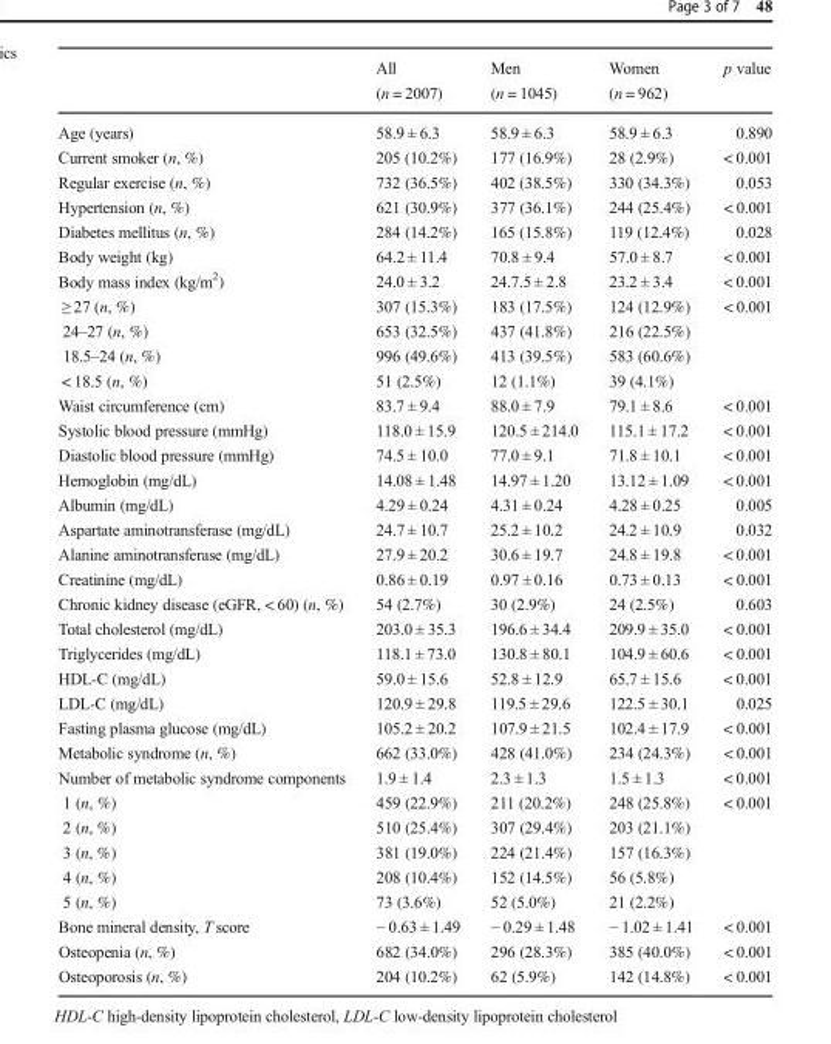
<table><thead><tr><td></td><td>All (n = 2007)</td><td>Men (n = 1045)</td><td>Women (n = 962)</td><td>p value</td></tr></thead><tbody><tr><td>Age (years)</td><td>58.9 ± 6.3</td><td>58.9 ± 6.3</td><td>58.9 ± 6.3</td><td>0.890</td></tr><tr><td>Current smoker (n, %)</td><td>205 (10.2%)</td><td>177 (16.9%)</td><td>28 (2.9%)</td><td>&lt; 0.001</td></tr><tr><td>Regular exercise (n, %)</td><td>732 (36.5%)</td><td>402 (38.5%)</td><td>330 (34.3%)</td><td>0.053</td></tr><tr><td>Hypertension (n, %)</td><td>621 (30.9%)</td><td>377 (36.1%)</td><td>244 (25.4%)</td><td>&lt; 0.001</td></tr><tr><td>Diabetes mellitus (n, %)</td><td>284 (14.2%)</td><td>165 (15.8%)</td><td>119 (12.4%)</td><td>0.028</td></tr><tr><td>Body weight (kg)</td><td>64.2 ± 11.4</td><td>70.8 ± 9.4</td><td>57.0 ± 8.7</td><td>&lt; 0.001</td></tr><tr><td>Body mass index (kg/m<sup>2</sup>)</td><td>24.0 ± 3.2</td><td>24.7.5 ± 2.8</td><td>23.2 ± 3.4</td><td>&lt; 0.001</td></tr><tr><td>≥ 27 (n, %)</td><td>307 (15.3%)</td><td>183 (17.5%)</td><td>124 (12.9%)</td><td>&lt; 0.001</td></tr><tr><td>24–27 (n, %)</td><td>653 (32.5%)</td><td>437 (41.8%)</td><td>216 (22.5%)</td><td></td></tr><tr><td>18.5–24 (n, %)</td><td>996 (49.6%)</td><td>413 (39.5%)</td><td>583 (60.6%)</td><td></td></tr><tr><td>&lt; 18.5 (n, %)</td><td>51 (2.5%)</td><td>12 (1.1%)</td><td>39 (4.1%)</td><td></td></tr><tr><td>Waist circumference (cm)</td><td>83.7 ± 9.4</td><td>88.0 ± 7.9</td><td>79.1 ± 8.6</td><td>&lt; 0.001</td></tr><tr><td>Systolic blood pressure (mmHg)</td><td>118.0 ± 15.9</td><td>120.5 ± 214.0</td><td>115.1 ± 17.2</td><td>&lt; 0.001</td></tr><tr><td>Diastolic blood pressure (mmHg)</td><td>74.5 ± 10.0</td><td>77.0 ± 9.1</td><td>71.8 ± 10.1</td><td>&lt; 0.001</td></tr><tr><td>Hemoglobin (mg/dL)</td><td>14.08 ± 1.48</td><td>14.97 ± 1.20</td><td>13.12 ± 1.09</td><td>&lt; 0.001</td></tr><tr><td>Albumin (mg/dL)</td><td>4.29 ± 0.24</td><td>4.31 ± 0.24</td><td>4.28 ± 0.25</td><td>0.005</td></tr><tr><td>Aspartate aminotransferase (mg/dL)</td><td>24.7 ± 10.7</td><td>25.2 ± 10.2</td><td>24.2 ± 10.9</td><td>0.032</td></tr><tr><td>Alanine aminotransferase (mg/dL)</td><td>27.9 ± 20.2</td><td>30.6 ± 19.7</td><td>24.8 ± 19.8</td><td>&lt; 0.001</td></tr><tr><td>Creatinine (mg/dL)</td><td>0.86 ± 0.19</td><td>0.97 ± 0.16</td><td>0.73 ± 0.13</td><td>&lt; 0.001</td></tr><tr><td>Chronic kidney disease (eGFR, &lt; 60) (n, %)</td><td>54 (2.7%)</td><td>30 (2.9%)</td><td>24 (2.5%)</td><td>0.603</td></tr><tr><td>Total cholesterol (mg/dL)</td><td>203.0 ± 35.3</td><td>196.6 ± 34.4</td><td>209.9 ± 35.0</td><td>&lt; 0.001</td></tr><tr><td>Triglycerides (mg/dL)</td><td>118.1 ± 73.0</td><td>130.8 ± 80.1</td><td>104.9 ± 60.6</td><td>&lt; 0.001</td></tr><tr><td>HDL-C (mg/dL)</td><td>59.0 ± 15.6</td><td>52.8 ± 12.9</td><td>65.7 ± 15.6</td><td>&lt; 0.001</td></tr><tr><td>LDL-C (mg/dL)</td><td>120.9 ± 29.8</td><td>119.5 ± 29.6</td><td>122.5 ± 30.1</td><td>0.025</td></tr><tr><td>Fasting plasma glucose (mg/dL)</td><td>105.2 ± 20.2</td><td>107.9 ± 21.5</td><td>102.4 ± 17.9</td><td>&lt; 0.001</td></tr><tr><td>Metabolic syndrome (n, %)</td><td>662 (33.0%)</td><td>428 (41.0%)</td><td>234 (24.3%)</td><td>&lt; 0.001</td></tr><tr><td>Number of metabolic syndrome components</td><td>1.9 ± 1.4</td><td>2.3 ± 1.3</td><td>1.5 ± 1.3</td><td>&lt; 0.001</td></tr><tr><td>1 (n, %)</td><td>459 (22.9%)</td><td>211 (20.2%)</td><td>248 (25.8%)</td><td>&lt; 0.001</td></tr><tr><td>2 (n, %)</td><td>510 (25.4%)</td><td>307 (29.4%)</td><td>203 (21.1%)</td><td></td></tr><tr><td>3 (n, %)</td><td>381 (19.0%)</td><td>224 (21.4%)</td><td>157 (16.3%)</td><td></td></tr><tr><td>4 (n, %)</td><td>208 (10.4%)</td><td>152 (14.5%)</td><td>56 (5.8%)</td><td></td></tr><tr><td>5 (n, %)</td><td>73 (3.6%)</td><td>52 (5.0%)</td><td>21 (2.2%)</td><td></td></tr><tr><td>Bone mineral density, T score</td><td>− 0.63 ± 1.49</td><td>− 0.29 ± 1.48</td><td>− 1.02 ± 1.41</td><td>&lt; 0.001</td></tr><tr><td>Osteopenia (n, %)</td><td>682 (34.0%)</td><td>296 (28.3%)</td><td>385 (40.0%)</td><td>&lt; 0.001</td></tr><tr><td>Osteoporosis (n, %)</td><td>204 (10.2%)</td><td>62 (5.9%)</td><td>142 (14.8%)</td><td>&lt; 0.001</td></tr></tbody></table>